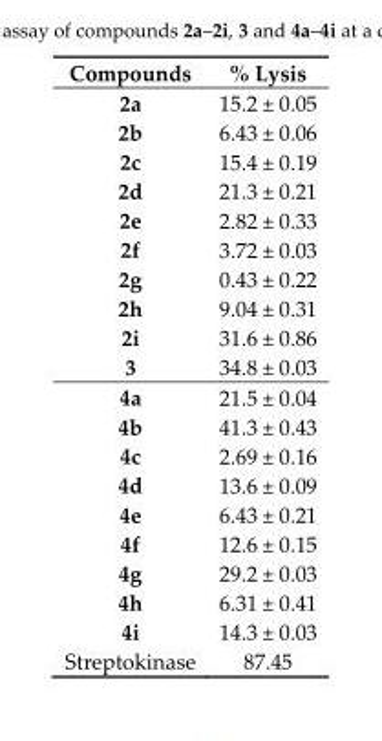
<table><thead><tr><td>Compounds</td><td>% Lysis</td></tr></thead><tbody><tr><td>2a</td><td>15.2 ± 0.05</td></tr><tr><td>2b</td><td>6.43 ± 0.06</td></tr><tr><td>2c</td><td>15.4 ± 0.19</td></tr><tr><td>2d</td><td>21.3 ± 0.21</td></tr><tr><td>2e</td><td>2.82 ± 0.33</td></tr><tr><td>2f</td><td>3.72 ± 0.03</td></tr><tr><td>2g</td><td>0.43 ± 0.22</td></tr><tr><td>2h</td><td>9.04 ± 0.31</td></tr><tr><td>2i</td><td>31.6 ± 0.86</td></tr><tr><td>3</td><td>34.8 ± 0.03</td></tr><tr><td>4a</td><td>21.5 ± 0.04</td></tr><tr><td>4b</td><td>41.3 ± 0.43</td></tr><tr><td>4c</td><td>2.69 ± 0.16</td></tr><tr><td>4d</td><td>13.6 ± 0.09</td></tr><tr><td>4e</td><td>6.43 ± 0.21</td></tr><tr><td>4f</td><td>12.6 ± 0.15</td></tr><tr><td>4g</td><td>29.2 ± 0.03</td></tr><tr><td>4h</td><td>6.31 ± 0.41</td></tr><tr><td>4i</td><td>14.3 ± 0.03</td></tr><tr><td>Streptokinase</td><td>87.45</td></tr></tbody></table>